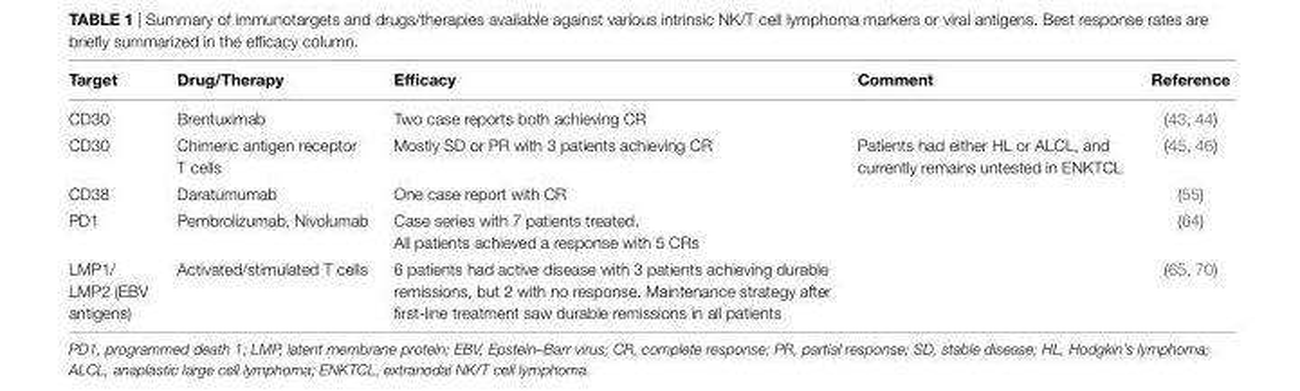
<table><thead><tr><td>Target</td><td>Drug/Therapy</td><td>efficacy</td><td>Comment</td><td>Reference</td></tr></thead><tbody><tr><td>CD30</td><td>Brentuximab</td><td>Two case reports both achieving CR</td><td></td><td>(43, 44)</td></tr><tr><td>CD30</td><td>Chimeric antigen receptor T cells</td><td>Mostly SD or PR with 3 patients achieving CR</td><td>Patients had either HL or ALCL, and currently remains untested in ENKTCL</td><td>(45, 46)</td></tr><tr><td>CD38</td><td>Daratumumab</td><td>One case report with CR</td><td></td><td>(55)</td></tr><tr><td>PD1</td><td>Pembrolizumab, Nivolumab</td><td>Case series with 7 patients treated. All patients achieved a response with 5 CRs</td><td></td><td>(64)</td></tr><tr><td>LMP1/ LMP2 (EBV antigens)</td><td>Activated/stimulated T cells</td><td>6 patients had active disease with 3 patients achieving durable remissions, but 2 with no response. Maintenance strategy after first-line treatment saw durable remissions in all patients</td><td></td><td>(65, 70)</td></tr></tbody></table>